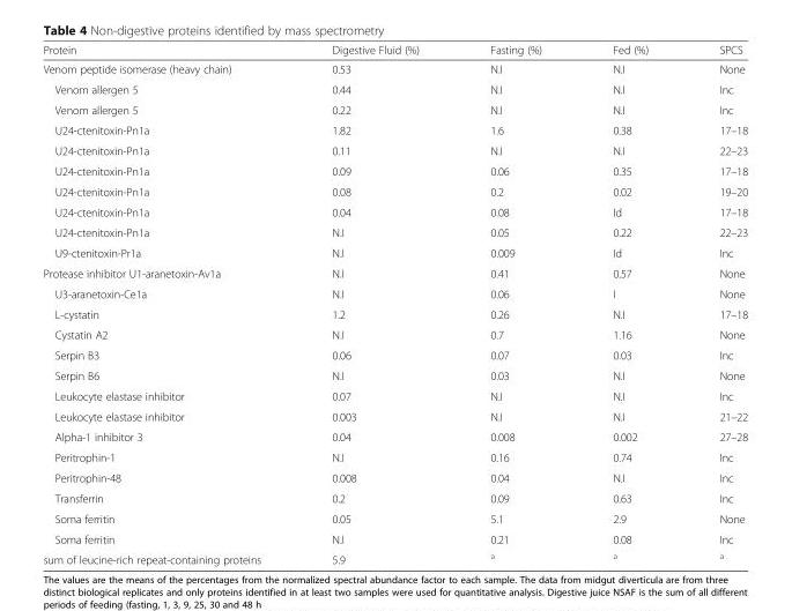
<table><thead><tr><td>Protein</td><td>Digestive Fluid (%)</td><td>Fasting (%)</td><td>Fed (%)</td><td>SPCS</td></tr></thead><tbody><tr><td>Venom peptide isomerase (heavy chain)</td><td>0.53</td><td>N.I</td><td>N.I</td><td>None</td></tr><tr><td>Venom allergen 5</td><td>0.44</td><td>N.I</td><td>N.I</td><td>Inc</td></tr><tr><td>Venom allergen 5</td><td>0.22</td><td>N.I</td><td>N.I</td><td>Inc</td></tr><tr><td>U24-ctenitoxin-Pn1a</td><td>1.82</td><td>1.6</td><td>0.38</td><td>17–18</td></tr><tr><td>U24-ctenitoxin-Pn1a</td><td>0.11</td><td>N.I</td><td>N.I</td><td>22–23</td></tr><tr><td>U24-ctenitoxin-Pn1a</td><td>0.09</td><td>0.06</td><td>0.35</td><td>17–18</td></tr><tr><td>U24-ctenitoxin-Pn1a</td><td>0.08</td><td>0.2</td><td>0.02</td><td>19–20</td></tr><tr><td>U24-ctenitoxin-Pn1a</td><td>0.04</td><td>0.08</td><td>Id</td><td>17–18</td></tr><tr><td>U24-ctenitoxin-Pn1a</td><td>N.I</td><td>0.05</td><td>0.22</td><td>22–23</td></tr><tr><td>U9-ctenitoxin-Pr1a</td><td>N.I</td><td>0.009</td><td>Id</td><td>Inc</td></tr><tr><td>Protease inhibitor U1-aranetoxin-Av1a</td><td>N.I</td><td>0.41</td><td>0.57</td><td>None</td></tr><tr><td>U3-aranetoxin-Ce1a</td><td>N.I</td><td>0.06</td><td>I</td><td>None</td></tr><tr><td>L-cystatin</td><td>1.2</td><td>0.26</td><td>N.I</td><td>17–18</td></tr><tr><td>Cystatin A2</td><td>N.I</td><td>0.7</td><td>1.16</td><td>None</td></tr><tr><td>Serpin B3</td><td>0.06</td><td>0.07</td><td>0.03</td><td>Inc</td></tr><tr><td>Serpin B6</td><td>N.I</td><td>0.03</td><td>N.I</td><td>None</td></tr><tr><td>Leukocyte elastase inhibitor</td><td>0.07</td><td>N.I</td><td>N.I</td><td>Inc</td></tr><tr><td>Leukocyte elastase inhibitor</td><td>0.003</td><td>N.I</td><td>N.I</td><td>21–22</td></tr><tr><td>Alpha-1 inhibitor 3</td><td>0.04</td><td>0.008</td><td>0.002</td><td>27–28</td></tr><tr><td>Peritrophin-1</td><td>N.I</td><td>0.16</td><td>0.74</td><td>Inc</td></tr><tr><td>Peritrophin-48</td><td>0.008</td><td>0.04</td><td>N.I</td><td>Inc</td></tr><tr><td>Transferrin</td><td>0.2</td><td>0.09</td><td>0.63</td><td>Inc</td></tr><tr><td>Soma ferritin</td><td>0.05</td><td>5.1</td><td>2.9</td><td>None</td></tr><tr><td>Soma ferritin</td><td>N.I</td><td>0.21</td><td>0.08</td><td>Inc</td></tr><tr><td>sum of leucine-rich repeat-containing proteins</td><td>5.9</td><td><sup>a</sup></td><td><sup>a</sup></td><td><sup>a</sup></td></tr></tbody></table>